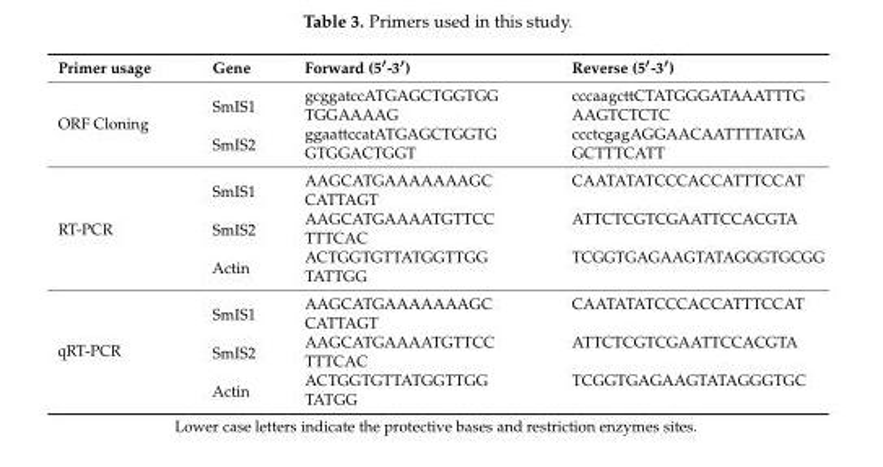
<table><thead><tr><td>Primer usage</td><td>Gene</td><td>Forward (5′-3′)</td><td>Reverse (5′-3′)</td></tr></thead><tbody><tr><td rowspan="4">ORF Cloning</td><td rowspan="2">SmIS1</td><td>gcggatccATGAGCTGGTGG</td><td>cccaagcttCTATGGGATAAATTTG</td></tr><tr><td>TGGAAAAG</td><td>AAGTCTCTC</td></tr><tr><td rowspan="2">SmIS2</td><td>ggaattccatATGAGCTGGTG</td><td>ccctcgagAGGAACAATTTTATGA</td></tr><tr><td>GTGGACTGGT</td><td>GCTTTCATT</td></tr><tr><td rowspan="6">RT-PCR</td><td rowspan="2">SmIS1</td><td>AAGCATGAAAAAAAGC</td><td>CAATATATCCCACCATTTCCAT</td></tr><tr><td>CATTAGT</td><td></td></tr><tr><td rowspan="2">SmIS2</td><td>AAGCATGAAAATGTTCC</td><td>ATTCTCGTCGAATTCCACGTA</td></tr><tr><td>TTTCAC</td><td></td></tr><tr><td rowspan="2">Actin</td><td>ACTGGTGTTATGGTTGG</td><td>TCGGTGAGAAGTATAGGGTGCGG</td></tr><tr><td>TATTGG</td><td></td></tr><tr><td rowspan="6">qRT-PCR</td><td rowspan="2">SmIS1</td><td>AAGCATGAAAAAAAGC</td><td>CAATATATCCCACCATTTCCAT</td></tr><tr><td>CATTAGT</td><td></td></tr><tr><td rowspan="2">SmIS2</td><td>AAGCATGAAAATGTTCC</td><td>ATTCTCGTCGAATTCCACGTA</td></tr><tr><td>TTTCAC</td><td></td></tr><tr><td rowspan="2">Actin</td><td>ACTGGTGTTATGGTTGG</td><td>TCGGTGAGAAGTATAGGGTGC</td></tr><tr><td>TATGG</td><td></td></tr></tbody></table>